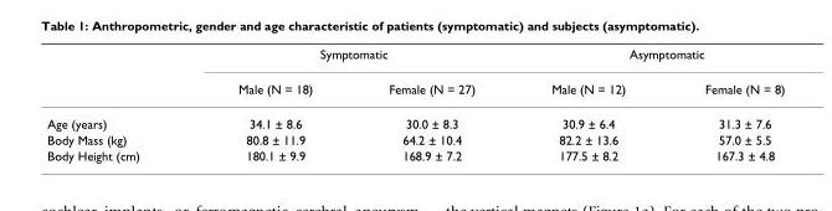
<table><thead><tr><td rowspan="2"></td><td colspan="2">Symptomatic</td><td colspan="2">Asymptomatic</td></tr><tr><td>Male (N = 18)</td><td>Female (N = 27)</td><td>Male (N = 12)</td><td>Female (N = 8)</td></tr></thead><tbody><tr><td>Age (years)</td><td>34.1 ± 8.6</td><td>30.0 ± 8.3</td><td>30.9 ± 6.4</td><td>31.3 ± 7.6</td></tr><tr><td>Body Mass (kg)</td><td>80.8 ± 11.9</td><td>64.2 ± 10.4</td><td>82.2 ± 13.6</td><td>57.0 ± 5.5</td></tr><tr><td>Body Height (cm)</td><td>180.1 ± 9.9</td><td>168.9 ± 7.2</td><td>177.5 ± 8.2</td><td>167.3 ± 4.8</td></tr></tbody></table>